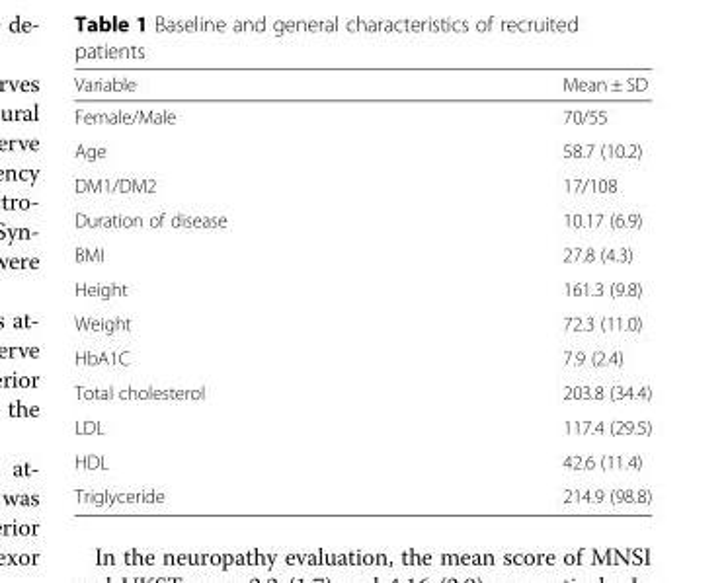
<table><thead><tr><td>Variable</td><td>Mean ± SD</td></tr></thead><tbody><tr><td>Female/Male</td><td>70/55</td></tr><tr><td>Age</td><td>58.7 (10.2)</td></tr><tr><td>DM1/DM2</td><td>17/108</td></tr><tr><td>Duration of disease</td><td>10.17 (6.9)</td></tr><tr><td>BMI</td><td>27.8 (4.3)</td></tr><tr><td>Height</td><td>161.3 (9.8)</td></tr><tr><td>Weight</td><td>72.3 (11.0)</td></tr><tr><td>HbA1C</td><td>7.9 (2.4)</td></tr><tr><td>Total cholesterol</td><td>203.8 (34.4)</td></tr><tr><td>LDL</td><td>117.4 (29.5)</td></tr><tr><td>HDL</td><td>42.6 (11.4)</td></tr><tr><td>Triglyceride</td><td>214.9 (98.8)</td></tr></tbody></table>